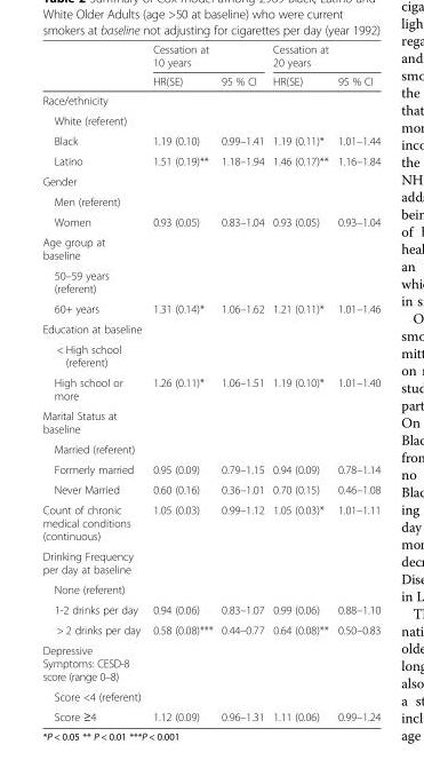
<table><thead><tr><td rowspan="2"></td><td colspan="2">Cessation at 10 years</td><td colspan="2">Cessation at 20 years</td></tr><tr><td>HR(SE)</td><td>95 % CI</td><td>HR(SE)</td><td>95 % CI</td></tr></thead><tbody><tr><td colspan="5">Race/ethnicity</td></tr><tr><td colspan="5">White (referent)</td></tr><tr><td>Black</td><td>1.19 (0.10)</td><td>0.99–1.41</td><td>1.19 (0.11)*</td><td>1.01–1.44</td></tr><tr><td>Latino</td><td>1.51 (0.19)**</td><td>1.18–1.94</td><td>1.46 (0.17)**</td><td>1.16–1.84</td></tr><tr><td colspan="5">Gender</td></tr><tr><td colspan="5">Men (referent)</td></tr><tr><td>Women</td><td>0.93 (0.05)</td><td>0.83–1.04</td><td>0.93 (0.05)</td><td>0.93–1.04</td></tr><tr><td colspan="5">Age group at baseline</td></tr><tr><td colspan="5">50–59 years (referent)</td></tr><tr><td>60+ years</td><td>1.31 (0.14)*</td><td>1.06–1.62</td><td>1.21 (0.11)*</td><td>1.01–1.46</td></tr><tr><td colspan="5">Education at baseline</td></tr><tr><td colspan="5">&lt; High school (referent)</td></tr><tr><td>High school or more</td><td>1.26 (0.11)*</td><td>1.06–1.51</td><td>1.19 (0.10)*</td><td>1.01–1.40</td></tr><tr><td colspan="5">Marital Status at baseline</td></tr><tr><td colspan="5">Married (referent)</td></tr><tr><td>Formerly married</td><td>0.95 (0.09)</td><td>0.79–1.15</td><td>0.94 (0.09)</td><td>0.78–1.14</td></tr><tr><td>Never Married</td><td>0.60 (0.16)</td><td>0.36–1.01</td><td>0.70 (0.15)</td><td>0.46–1.08</td></tr><tr><td>Count of chronic medical conditions (continuous)</td><td>1.05 (0.03)</td><td>0.99–1.12</td><td>1.05 (0.03)*</td><td>1.01–1.11</td></tr><tr><td colspan="5">Drinking Frequency per day at baseline</td></tr><tr><td colspan="5">None (referent)</td></tr><tr><td>1-2 drinks per day</td><td>0.94 (0.06)</td><td>0.83–1.07</td><td>0.99 (0.06)</td><td>0.88–1.10</td></tr><tr><td>&gt; 2 drinks per day</td><td>0.58 (0.08)***</td><td>0.44–0.77</td><td>0.64 (0.08)**</td><td>0.50–0.83</td></tr><tr><td colspan="5">Depressive Symptoms: CESD-8 score (range 0–8)</td></tr><tr><td colspan="5">Score &lt;4 (referent)</td></tr><tr><td>Score ≥4</td><td>1.12 (0.09)</td><td>0.96–1.31</td><td>1.11 (0.06)</td><td>0.99–1.24</td></tr></tbody></table>